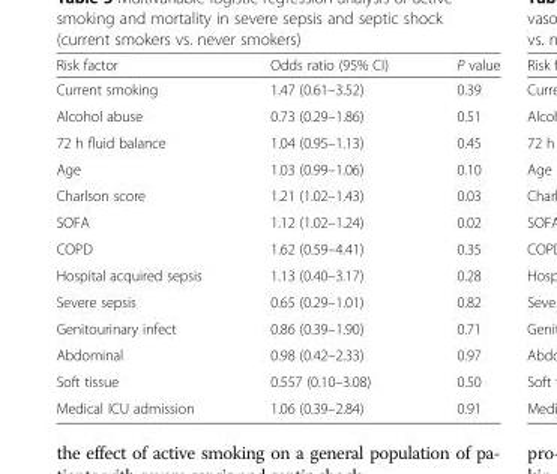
<table><thead><tr><td>Risk factor</td><td>Odds ratio (95% CI)</td><td>P value</td></tr></thead><tbody><tr><td>Current smoking</td><td>1.47 (0.61–3.52)</td><td>0.39</td></tr><tr><td>Alcohol abuse</td><td>0.73 (0.29–1.86)</td><td>0.51</td></tr><tr><td>72 h fluid balance</td><td>1.04 (0.95–1.13)</td><td>0.45</td></tr><tr><td>Age</td><td>1.03 (0.99–1.06)</td><td>0.10</td></tr><tr><td>Charlson score</td><td>1.21 (1.02–1.43)</td><td>0.03</td></tr><tr><td>SOFA</td><td>1.12 (1.02–1.24)</td><td>0.02</td></tr><tr><td>COPD</td><td>1.62 (0.59–4.41)</td><td>0.35</td></tr><tr><td>Hospital acquired sepsis</td><td>1.13 (0.40–3.17)</td><td>0.28</td></tr><tr><td>Severe sepsis</td><td>0.65 (0.29–1.01)</td><td>0.82</td></tr><tr><td>Genitourinary infect</td><td>0.86 (0.39–1.90)</td><td>0.71</td></tr><tr><td>Abdominal</td><td>0.98 (0.42–2.33)</td><td>0.97</td></tr><tr><td>Soft tissue</td><td>0.557 (0.10–3.08)</td><td>0.50</td></tr><tr><td>Medical ICU admission</td><td>1.06 (0.39–2.84)</td><td>0.91</td></tr></tbody></table>